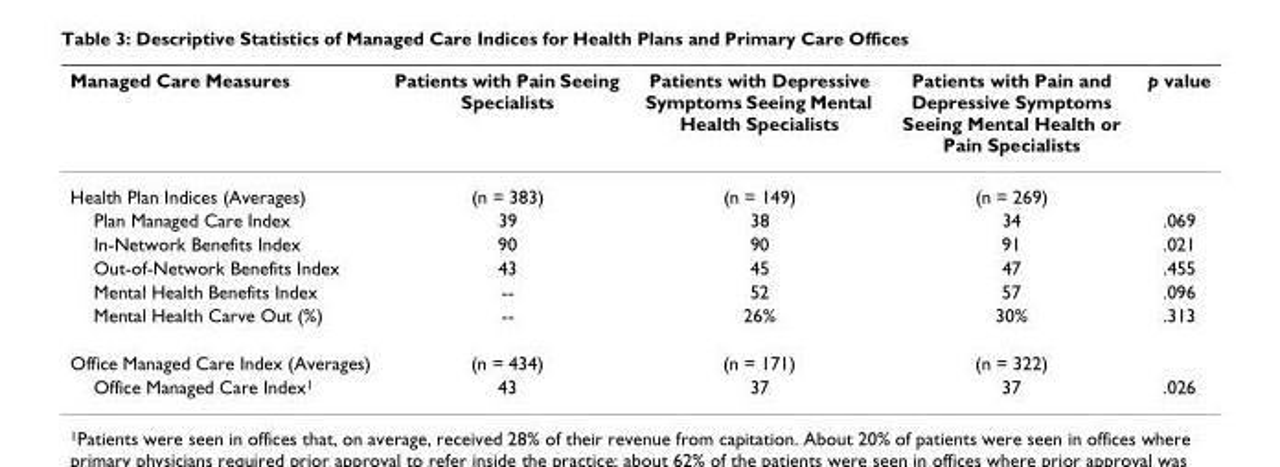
<table><thead><tr><td>Managed Care Measures</td><td>Patients with Pain Seeing Specialists</td><td>Patients with Depressive Symptoms Seeing Mental Health Specialists</td><td>Patients with Pain and Depressive Symptoms Seeing Mental Health or Pain Specialists</td><td>p value</td></tr></thead><tbody><tr><td>Health Plan Indices (Averages)</td><td>(n = 383)</td><td>(n = 149)</td><td>(n = 269)</td><td></td></tr><tr><td>Plan Managed Care Index</td><td>39</td><td>38</td><td>34</td><td>.069</td></tr><tr><td>In-Network Benefits Index</td><td>90</td><td>90</td><td>91</td><td>.021</td></tr><tr><td>Out-of-Network Benefits Index</td><td>43</td><td>45</td><td>47</td><td>.455</td></tr><tr><td>Mental Health Benefits Index</td><td>--</td><td>52</td><td>57</td><td>.096</td></tr><tr><td>Mental Health Carve Out (%)</td><td>--</td><td>26%</td><td>30%</td><td>.313</td></tr><tr><td>Office Managed Care Index (Averages)</td><td>(n = 434)</td><td>(n = 171)</td><td>(n = 322)</td><td></td></tr><tr><td>Office Managed Care Index<sup>1</sup></td><td>43</td><td>37</td><td>37</td><td>.026</td></tr></tbody></table>